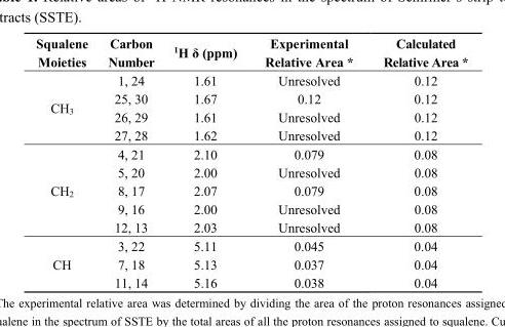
<table><thead><tr><td>Squalene Moieties</td><td>Carbon Number</td><td><sup>1</sup>H δ (ppm)</td><td>Experimental Relative Area *</td><td>Calculated Relative Area *</td></tr></thead><tbody><tr><td rowspan="4">CH<sub>3</sub></td><td>1, 24</td><td>1.61</td><td>Unresolved</td><td>0.12</td></tr><tr><td>25, 30</td><td>1.67</td><td>0.12</td><td>0.12</td></tr><tr><td>26, 29</td><td>1.61</td><td>Unresolved</td><td>0.12</td></tr><tr><td>27, 28</td><td>1.62</td><td>Unresolved</td><td>0.12</td></tr><tr><td rowspan="5">CH<sub>2</sub></td><td>4, 21</td><td>2.10</td><td>0.079</td><td>0.08</td></tr><tr><td>5, 20</td><td>2.00</td><td>Unresolved</td><td>0.08</td></tr><tr><td>8, 17</td><td>2.07</td><td>0.079</td><td>0.08</td></tr><tr><td>9, 16</td><td>2.00</td><td>Unresolved</td><td>0.08</td></tr><tr><td>12, 13</td><td>2.03</td><td>Unresolved</td><td>0.08</td></tr><tr><td rowspan="3">CH</td><td>3, 22</td><td>5.11</td><td>0.045</td><td>0.04</td></tr><tr><td>7, 18</td><td>5.13</td><td>0.037</td><td>0.04</td></tr><tr><td>11, 14</td><td>5.16</td><td>0.038</td><td>0.04</td></tr></tbody></table>